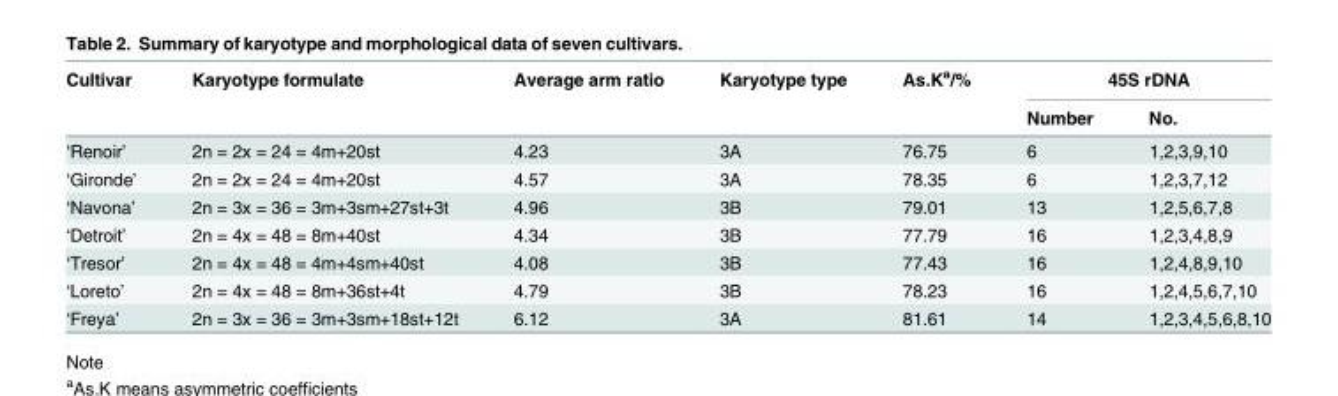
<table><thead><tr><td rowspan="2">Cultivar</td><td rowspan="2">Karyotype formulate</td><td rowspan="2">Average arm ratio</td><td rowspan="2">Karyotype type</td><td rowspan="2">As.K<sup>a</sup>/%</td><td colspan="2">45S rDNA</td></tr><tr><td>Number</td><td>No.</td></tr></thead><tbody><tr><td>‘Renoir’</td><td>2n = 2x = 24 = 4m+20st</td><td>4.23</td><td>3A</td><td>76.75</td><td>6</td><td>1,2,3,9,10</td></tr><tr><td>‘Gironde’</td><td>2n = 2x = 24 = 4m+20st</td><td>4.57</td><td>3A</td><td>78.35</td><td>6</td><td>1,2,3,7,12</td></tr><tr><td>‘Navona’</td><td>2n = 3x = 36 = 3m+3sm+27st+3t</td><td>4.96</td><td>3B</td><td>79.01</td><td>13</td><td>1,2,5,6,7,8</td></tr><tr><td>‘Detroit’</td><td>2n = 4x = 48 = 8m+40st</td><td>4.34</td><td>3B</td><td>77.79</td><td>16</td><td>1,2,3,4,8,9</td></tr><tr><td>‘Tresor’</td><td>2n = 4x = 48 = 4m+4sm+40st</td><td>4.08</td><td>3B</td><td>77.43</td><td>16</td><td>1,2,4,8,9,10</td></tr><tr><td>‘Loreto’</td><td>2n = 4x = 48 = 8m+36st+4t</td><td>4.79</td><td>3B</td><td>78.23</td><td>16</td><td>1,2,4,5,6,7,10</td></tr><tr><td>‘Freya’</td><td>2n = 3x = 36 = 3m+3sm+18st+12t</td><td>6.12</td><td>3A</td><td>81.61</td><td>14</td><td>1,2,3,4,5,6,8,10</td></tr></tbody></table>